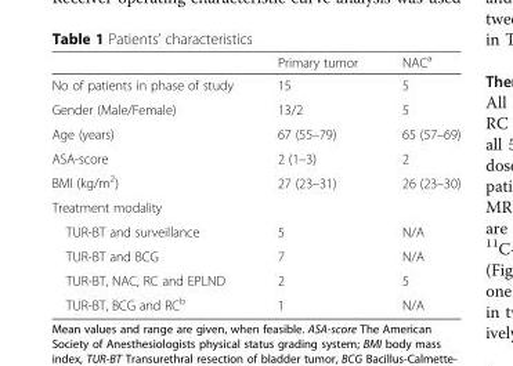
<table><thead><tr><td></td><td>Primary tumor</td><td>NAC<sup>a</sup></td></tr></thead><tbody><tr><td>No of patients in phase of study</td><td>15</td><td>5</td></tr><tr><td>Gender (Male/Female)</td><td>13/2</td><td>5</td></tr><tr><td>Age (years)</td><td>67 (55–79)</td><td>65 (57–69)</td></tr><tr><td>ASA-score</td><td>2 (1–3)</td><td>2</td></tr><tr><td>BMI (kg/m<sup>2</sup>)</td><td>27 (23–31)</td><td>26 (23–30)</td></tr><tr><td colspan="3">Treatment modality</td></tr><tr><td>TUR-BT and surveillance</td><td>5</td><td>N/A</td></tr><tr><td>TUR-BT and BCG</td><td>7</td><td>N/A</td></tr><tr><td>TUR-BT, NAC, RC and EPLND</td><td>2</td><td>5</td></tr><tr><td>TUR-BT, BCG and RC<sup>b</sup></td><td>1</td><td>N/A</td></tr></tbody></table>